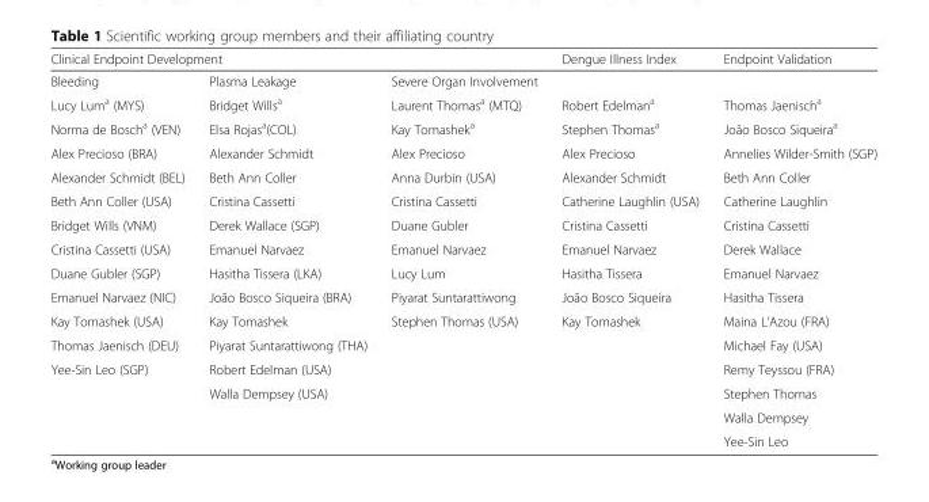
<table><thead><tr><td colspan="3">Clinical Endpoint Development</td><td rowspan="2">Dengue Illness Index</td><td rowspan="2">Endpoint Validation</td></tr><tr><td>Bleeding</td><td>Plasma Leakage</td><td>Severe Organ Involvement</td></tr></thead><tbody><tr><td>Lucy Lum<sup>a</sup> (MYS)</td><td>Bridget Wills<sup>a</sup></td><td>Laurent Thomas<sup>a</sup> (MTQ)</td><td>Robert Edelman<sup>a</sup></td><td>Thomas Jaenisch<sup>a</sup></td></tr><tr><td>Norma de Bosch<sup>a</sup> (VEN)</td><td>Elsa Rojas<sup>a</sup>(COL)</td><td>Kay Tomashek<sup>a</sup></td><td>Stephen Thomas<sup>a</sup></td><td>João Bosco Siqueira<sup>a</sup></td></tr><tr><td>Alex Precioso (BRA)</td><td>Alexander Schmidt</td><td>Alex Precioso</td><td>Alex Precioso</td><td>Annelies Wilder-Smith (SGP)</td></tr><tr><td>Alexander Schmidt (BEL)</td><td>Beth Ann Coller</td><td>Anna Durbin (USA)</td><td>Alexander Schmidt</td><td>Beth Ann Coller</td></tr><tr><td>Beth Ann Coller (USA)</td><td>Cristina Cassetti</td><td>Cristina Cassetti</td><td>Catherine Laughlin (USA)</td><td>Catherine Laughlin</td></tr><tr><td>Bridget Wills (VNM)</td><td>Derek Wallace (SGP)</td><td>Duane Gubler</td><td>Cristina Cassetti</td><td>Cristina Cassetti</td></tr><tr><td>Cristina Cassetti (USA)</td><td>Emanuel Narvaez</td><td>Emanuel Narvaez</td><td>Emanuel Narvaez</td><td>Derek Wallace</td></tr><tr><td>Duane Gubler (SGP)</td><td>Hasitha Tissera (LKA)</td><td>Lucy Lum</td><td>Hasitha Tissera</td><td>Emanuel Narvaez</td></tr><tr><td>Emanuel Narvaez (NIC)</td><td>João Bosco Siqueira (BRA)</td><td>Piyarat Suntarattiwong</td><td>João Bosco Siqueira</td><td>Hasitha Tissera</td></tr><tr><td>Kay Tomashek (USA)</td><td>Kay Tomashek</td><td>Stephen Thomas (USA)</td><td>Kay Tomashek</td><td>Maina L’Azou (FRA)</td></tr><tr><td>Thomas Jaenisch (DEU)</td><td>Piyarat Suntarattiwong (THA)</td><td></td><td></td><td>Michael Fay (USA)</td></tr><tr><td rowspan="4">Yee-Sin Leo (SGP)</td><td>Robert Edelman (USA)</td><td></td><td></td><td>Remy Teyssou (FRA)</td></tr><tr><td>Walla Dempsey (USA)</td><td></td><td></td><td>Stephen Thomas</td></tr><tr><td></td><td></td><td></td><td>Walla Dempsey</td></tr><tr><td></td><td></td><td></td><td>Yee-Sin Leo</td></tr></tbody></table>